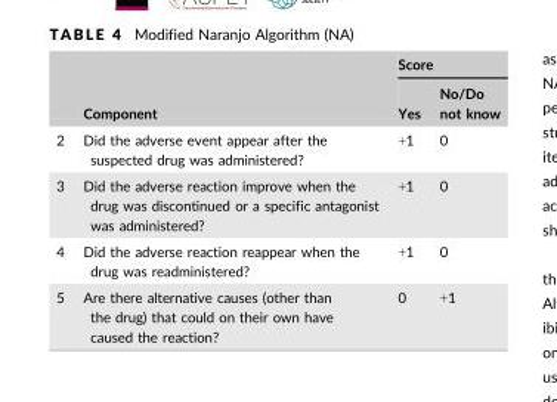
<table><thead><tr><td rowspan="2"></td><td rowspan="2">Component</td><td colspan="2">Score</td></tr><tr><td>Yes</td><td>No/Do not know</td></tr></thead><tbody><tr><td>2</td><td>Did the adverse event appear after the suspected drug was administered?</td><td>+1</td><td>0</td></tr><tr><td>3</td><td>Did the adverse reaction improve when the drug was discontinued or a specific antagonist was administered?</td><td>+1</td><td>0</td></tr><tr><td>4</td><td>Did the adverse reaction reappear when the drug was readministered?</td><td>+1</td><td>0</td></tr><tr><td>5</td><td>Are there alternative causes (other than the drug) that could on their own have caused the reaction?</td><td>0</td><td>+1</td></tr></tbody></table>